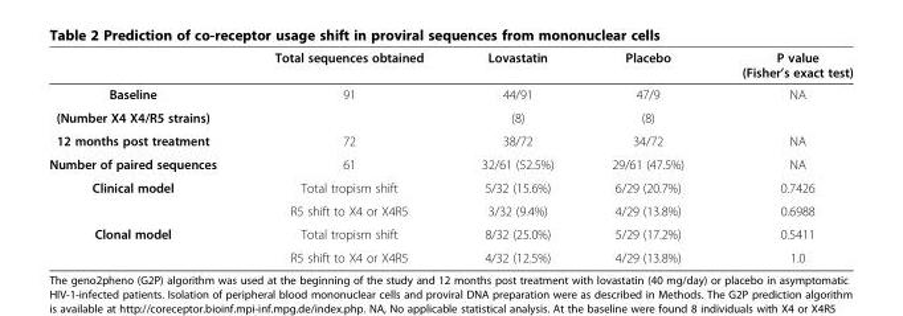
<table><thead><tr><td></td><td>Total sequences obtained</td><td>Lovastatin</td><td>Placebo</td><td>P value (Fisher’s exact test)</td></tr></thead><tbody><tr><td>Baseline</td><td>91</td><td>44/91</td><td>47/9</td><td rowspan="2">NA</td></tr><tr><td>(Number X4 X4/R5 strains)</td><td></td><td>(8)</td><td>(8)</td></tr><tr><td>12 months post treatment</td><td>72</td><td>38/72</td><td>34/72</td><td>NA</td></tr><tr><td>Number of paired sequences</td><td>61</td><td>32/61 (52.5%)</td><td>29/61 (47.5%)</td><td>NA</td></tr><tr><td rowspan="2">Clinical model</td><td>Total tropism shift</td><td>5/32 (15.6%)</td><td>6/29 (20.7%)</td><td>0.7426</td></tr><tr><td>R5 shift to X4 or X4R5</td><td>3/32 (9.4%)</td><td>4/29 (13.8%)</td><td>0.6988</td></tr><tr><td rowspan="2">Clonal model</td><td>Total tropism shift</td><td>8/32 (25.0%)</td><td>5/29 (17.2%)</td><td>0.5411</td></tr><tr><td>R5 shift to X4 or X4R5</td><td>4/32 (12.5%)</td><td>4/29 (13.8%)</td><td>1.0</td></tr></tbody></table>